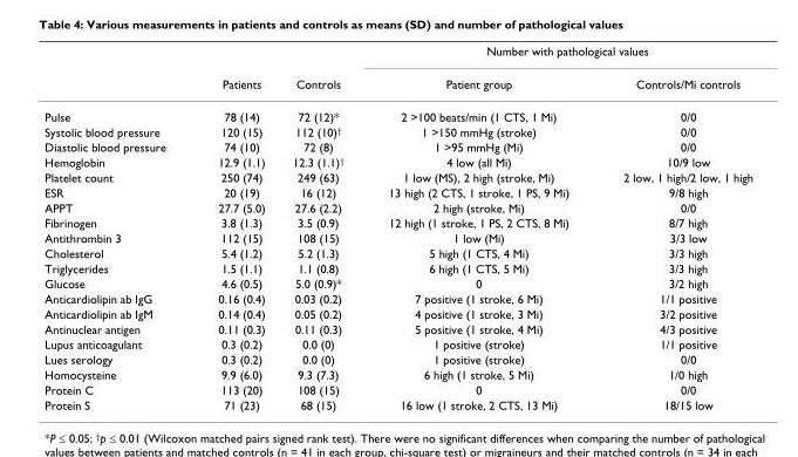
<table><thead><tr><td rowspan="2"></td><td rowspan="2">Patients</td><td rowspan="2">Controls</td><td colspan="2">Number with pathological values</td></tr><tr><td>Patient group</td><td>Controls/Mi controls</td></tr></thead><tbody><tr><td>Pulse</td><td>78 (14)</td><td>72 (12)*</td><td>2 &gt;100 beats/min (1 CTS, 1 Mi)</td><td>0/0</td></tr><tr><td>Systolic blood pressure</td><td>120 (15)</td><td>112 (10)<sup>†</sup></td><td>1 &gt;150 mmHg (stroke)</td><td>0/0</td></tr><tr><td>Diastolic blood pressure</td><td>74 (10)</td><td>72 (8)</td><td>1 &gt;95 mmHg (Mi)</td><td>0/0</td></tr><tr><td>Hemoglobin</td><td>12.9 (1.1)</td><td>12.3 (1.1)<sup>†</sup></td><td>4 low (all Mi)</td><td>10/9 low</td></tr><tr><td>Platelet count</td><td>250 (74)</td><td>249 (63)</td><td>1 low (MS), 2 high (stroke, Mi)</td><td>2 low, 1 high/2 low, 1 high</td></tr><tr><td>ESR</td><td>20 (19)</td><td>16 (12)</td><td>13 high (2 CTS, 1 stroke, 1 PS, 9 Mi)</td><td>9/8 high</td></tr><tr><td>APPT</td><td>27.7 (5.0)</td><td>27.6 (2.2)</td><td>2 high (stroke, Mi)</td><td>0/0</td></tr><tr><td>Fibrinogen</td><td>3.8 (1.3)</td><td>3.5 (0.9)</td><td>12 high (1 stroke, 1 PS, 2 CTS, 8 Mi)</td><td>8/7 high</td></tr><tr><td>Antithrombin 3</td><td>112 (15)</td><td>108 (15)</td><td>1 low (Mi)</td><td>3/3 low</td></tr><tr><td>Cholesterol</td><td>5.4 (1.2)</td><td>5.2 (1.3)</td><td>5 high (1 CTS, 4 Mi)</td><td>3/3 high</td></tr><tr><td>Triglycerides</td><td>1.5 (1.1)</td><td>1.1 (0.8)</td><td>6 high (1 CTS, 5 Mi)</td><td>3/3 high</td></tr><tr><td>Glucose</td><td>4.6 (0.5)</td><td>5.0 (0.9)*</td><td>0</td><td>3/2 high</td></tr><tr><td>Anticardiolipin ab IgG</td><td>0.16 (0.4)</td><td>0.03 (0.2)</td><td>7 positive (1 stroke, 6 Mi)</td><td>1/1 positive</td></tr><tr><td>Anticardiolipin ab IgM</td><td>0.14 (0.4)</td><td>0.05 (0.2)</td><td>4 positive (1 stroke, 3 Mi)</td><td>3/2 positive</td></tr><tr><td>Antinuclear antigen</td><td>0.11 (0.3)</td><td>0.11 (0.3)</td><td>5 positive (1 stroke, 4 Mi)</td><td>4/3 positive</td></tr><tr><td>Lupus anticoagulant</td><td>0.3 (0.2)</td><td>0.0 (0)</td><td>1 positive (stroke)</td><td>1/1 positive</td></tr><tr><td>Lues serology</td><td>0.3 (0.2)</td><td>0.0 (0)</td><td>1 positive (stroke)</td><td>0/0</td></tr><tr><td>Homocysteine</td><td>9.9 (6.0)</td><td>9.3 (7.3)</td><td>6 high (1 stroke, 5 Mi)</td><td>1/0 high</td></tr><tr><td>Protein C</td><td>113 (20)</td><td>108 (15)</td><td>0</td><td>0/0</td></tr><tr><td>Protein S</td><td>71 (23)</td><td>68 (15)</td><td>16 low (1 stroke, 2 CTS, 13 Mi)</td><td>18/15 low</td></tr></tbody></table>